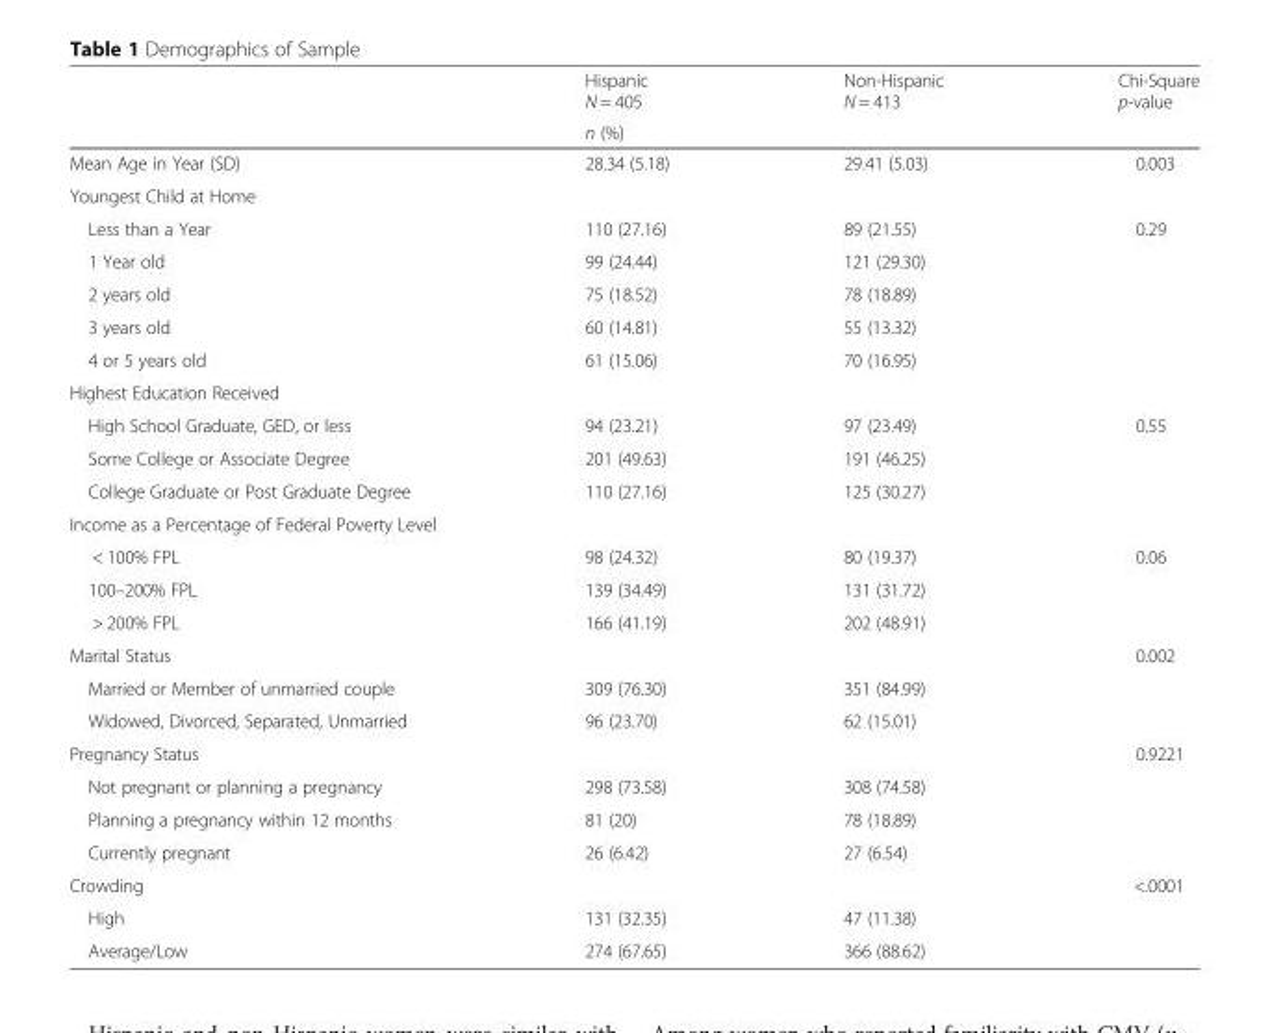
<table><thead><tr><td rowspan="2"></td><td>Hispanic N = 405</td><td>Non-Hispanic N = 413</td><td rowspan="2">Chi-Square p-value</td></tr><tr><td colspan="2">n (%)</td></tr></thead><tbody><tr><td>Mean Age in Year (SD)</td><td>28.34 (5.18)</td><td>29.41 (5.03)</td><td>0.003</td></tr><tr><td colspan="4">Youngest Child at Home</td></tr><tr><td>Less than a Year</td><td>110 (27.16)</td><td>89 (21.55)</td><td>0.29</td></tr><tr><td>1 Year old</td><td>99 (24.44)</td><td>121 (29.30)</td><td></td></tr><tr><td>2 years old</td><td>75 (18.52)</td><td>78 (18.89)</td><td></td></tr><tr><td>3 years old</td><td>60 (14.81)</td><td>55 (13.32)</td><td></td></tr><tr><td>4 or 5 years old</td><td>61 (15.06)</td><td>70 (16.95)</td><td></td></tr><tr><td colspan="4">Highest Education Received</td></tr><tr><td>High School Graduate, GED, or less</td><td>94 (23.21)</td><td>97 (23.49)</td><td>0.55</td></tr><tr><td>Some College or Associate Degree</td><td>201 (49.63)</td><td>191 (46.25)</td><td></td></tr><tr><td>College Graduate or Post Graduate Degree</td><td>110 (27.16)</td><td>125 (30.27)</td><td></td></tr><tr><td colspan="4">Income as a Percentage of Federal Poverty Level</td></tr><tr><td>&lt; 100% FPL</td><td>98 (24.32)</td><td>80 (19.37)</td><td>0.06</td></tr><tr><td>100–200% FPL</td><td>139 (34.49)</td><td>131 (31.72)</td><td></td></tr><tr><td>&gt; 200% FPL</td><td>166 (41.19)</td><td>202 (48.91)</td><td></td></tr><tr><td colspan="3">Marital Status</td><td>0.002</td></tr><tr><td>Married or Member of unmarried couple</td><td>309 (76.30)</td><td>351 (84.99)</td><td></td></tr><tr><td>Widowed, Divorced, Separated, Unmarried</td><td>96 (23.70)</td><td>62 (15.01)</td><td></td></tr><tr><td colspan="3">Pregnancy Status</td><td>0.9221</td></tr><tr><td>Not pregnant or planning a pregnancy</td><td>298 (73.58)</td><td>308 (74.58)</td><td></td></tr><tr><td>Planning a pregnancy within 12 months</td><td>81 (20)</td><td>78 (18.89)</td><td></td></tr><tr><td>Currently pregnant</td><td>26 (6.42)</td><td>27 (6.54)</td><td></td></tr><tr><td colspan="3">Crowding</td><td>&lt;.0001</td></tr><tr><td>High</td><td>131 (32.35)</td><td>47 (11.38)</td><td></td></tr><tr><td>Average/Low</td><td>274 (67.65)</td><td>366 (88.62)</td><td></td></tr></tbody></table>